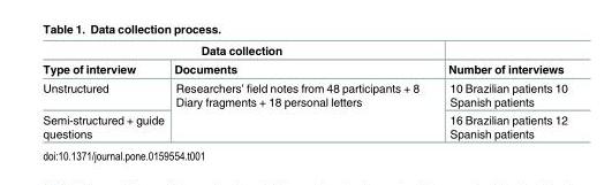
<table><thead><tr><td colspan="2">Data collection</td><td rowspan="2">Number of interviews</td></tr><tr><td>Type of interview</td><td>Documents</td></tr></thead><tbody><tr><td>Unstructured</td><td rowspan="2">Researchers’ field notes from 48 participants + 8 Diary fragments + 18 personal letters</td><td>10 Brazilian patients 10 Spanish patients</td></tr><tr><td>Semi-structured + guide questions</td><td>16 Brazilian patients 12 Spanish patients</td></tr></tbody></table>